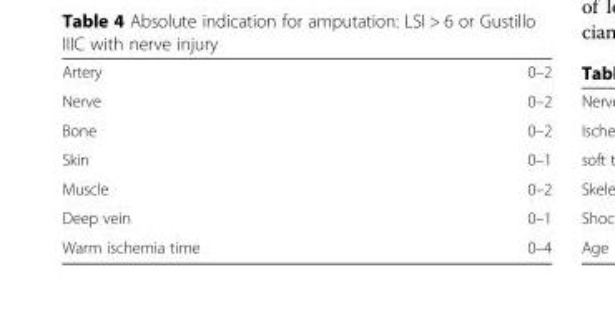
<table><tbody><tr><td>Artery</td><td>0–2</td></tr><tr><td>Nerve</td><td>0–2</td></tr><tr><td>Bone</td><td>0–2</td></tr><tr><td>Skin</td><td>0–1</td></tr><tr><td>Muscle</td><td>0–2</td></tr><tr><td>Deep vein</td><td>0–1</td></tr><tr><td>Warm ischemia time</td><td>0–4</td></tr></tbody></table>